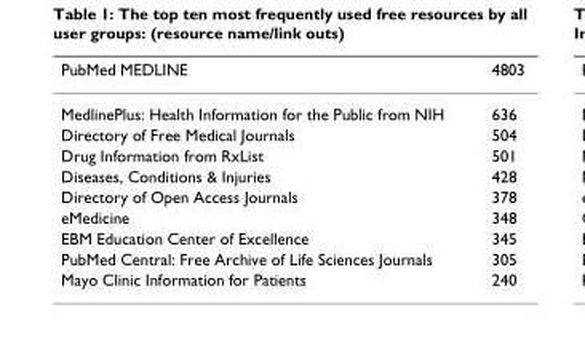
<table><thead><tr><td>PubMed MEDLINE</td><td>4803</td></tr></thead><tbody><tr><td>MedlinePlus: Health Information for the Public from NIH</td><td>636</td></tr><tr><td>Directory of Free Medical Journals</td><td>504</td></tr><tr><td>Drug Information from RxList</td><td>501</td></tr><tr><td>Diseases, Conditions &amp; Injuries</td><td>428</td></tr><tr><td>Directory of Open Access Journals</td><td>378</td></tr><tr><td>eMedicine</td><td>348</td></tr><tr><td>EBM Education Center of Excellence</td><td>345</td></tr><tr><td>PubMed Central: Free Archive of Life Sciences Journals</td><td>305</td></tr><tr><td>Mayo Clinic Information for Patients</td><td>240</td></tr></tbody></table>